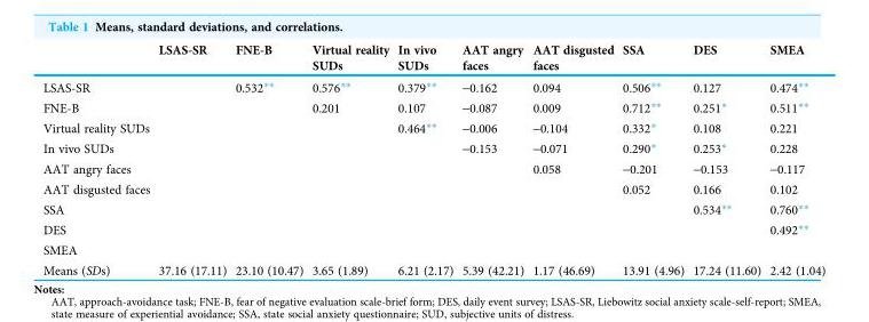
<table><thead><tr><td></td><td>LSAS-SR</td><td>FNE-B</td><td>Virtual reality SUDs</td><td>In vivo SUDs</td><td>AAT angry faces</td><td>AAT disgusted faces</td><td>SSA</td><td>DES</td><td>SMEA</td></tr></thead><tbody><tr><td>LSAS-SR</td><td></td><td>0.532**</td><td>0.576**</td><td>0.379**</td><td>-0.162</td><td>0.094</td><td>0.506**</td><td>0.127</td><td>0.474**</td></tr><tr><td>FNE-B</td><td></td><td></td><td>0.201</td><td>0.107</td><td>-0.087</td><td>0.009</td><td>0.712**</td><td>0.251*</td><td>0.511**</td></tr><tr><td>Virtual reality SUDs</td><td></td><td></td><td></td><td>0.464**</td><td>-0.006</td><td>-0.104</td><td>0.332*</td><td>0.108</td><td>0.221</td></tr><tr><td>In vivo SUDs</td><td></td><td></td><td></td><td></td><td>-0.153</td><td>-0.071</td><td>0.290*</td><td>0.253*</td><td>0.228</td></tr><tr><td>AAT angry faces</td><td></td><td></td><td></td><td></td><td></td><td>0.058</td><td>-0.201</td><td>-0.153</td><td>-0.117</td></tr><tr><td>AAT disgusted faces</td><td></td><td></td><td></td><td></td><td></td><td></td><td>0.052</td><td>0.166</td><td>0.102</td></tr><tr><td>SSA</td><td></td><td></td><td></td><td></td><td></td><td></td><td></td><td>0.534**</td><td>0.760**</td></tr><tr><td>DES</td><td></td><td></td><td></td><td></td><td></td><td></td><td></td><td></td><td>0.492**</td></tr><tr><td colspan="10">SMEA</td></tr><tr><td>Means (SDs)</td><td>37.16 (17.11)</td><td>23.10 (10.47)</td><td>3.65 (1.89)</td><td>6.21 (2.17)</td><td>5.39 (42.21)</td><td>1.17 (46.69)</td><td>13.91 (4.96)</td><td>17.24 (11.60)</td><td>2.42 (1.04)</td></tr></tbody></table>